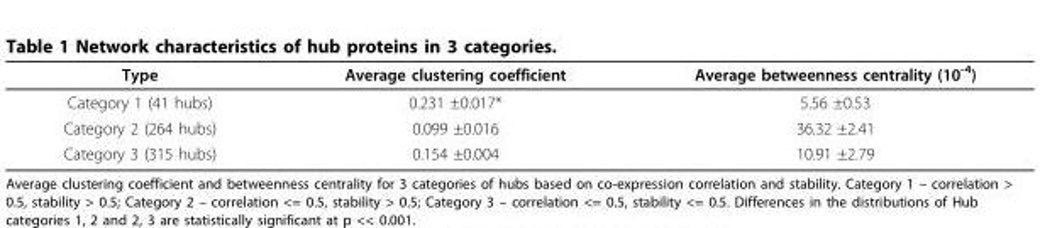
<table><thead><tr><td>Type</td><td>Average clustering coefficient</td><td>Average betweenness centrality (10<sup>-4</sup>)</td></tr></thead><tbody><tr><td>Category 1 (41 hubs)</td><td>0.231 ±0.017*</td><td>5.56 ±0.53</td></tr><tr><td>Category 2 (264 hubs)</td><td>0.099 ±0.016</td><td>36.32 ±2.41</td></tr><tr><td>Category 3 (315 hubs)</td><td>0.154 ±0.004</td><td>10.91 ±2.79</td></tr></tbody></table>